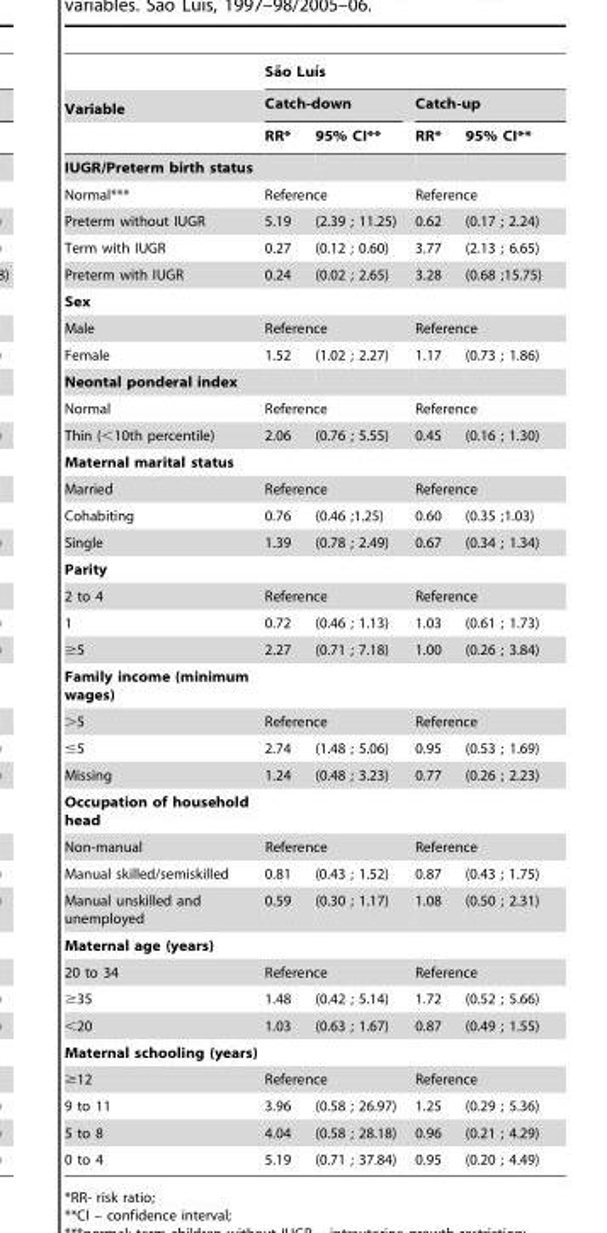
<table><thead><tr><td rowspan="3">Variable</td><td colspan="4">Sa˜o Luı´s</td></tr><tr><td colspan="2">Catch-down</td><td colspan="2">Catch-up</td></tr><tr><td>RR*</td><td>95% CI**</td><td>RR*</td><td>95% CI**</td></tr></thead><tbody><tr><td colspan="5">IUGR/Preterm birth status</td></tr><tr><td>Normal***</td><td colspan="2">Reference</td><td colspan="2">Reference</td></tr><tr><td>Preterm without IUGR</td><td>5.19</td><td>(2.39 ; 11.25)</td><td>0.62</td><td>(0.17 ; 2.24)</td></tr><tr><td>Term with IUGR</td><td>0.27</td><td>(0.12 ; 0.60)</td><td>3.77</td><td>(2.13 ; 6.65)</td></tr><tr><td>Preterm with IUGR</td><td>0.24</td><td>(0.02 ; 2.65)</td><td>3.28</td><td>(0.68 ;15.75)</td></tr><tr><td colspan="5">Sex</td></tr><tr><td>Male</td><td colspan="2">Reference</td><td colspan="2">Reference</td></tr><tr><td>Female</td><td>1.52</td><td>(1.02 ; 2.27)</td><td>1.17</td><td>(0.73 ; 1.86)</td></tr><tr><td colspan="5">Neontal ponderal index</td></tr><tr><td>Normal</td><td colspan="2">Reference</td><td colspan="2">Reference</td></tr><tr><td>Thin (&lt;10th percentile)</td><td>2.06</td><td>(0.76 ; 5.55)</td><td>0.45</td><td>(0.16 ; 1.30)</td></tr><tr><td colspan="5">Maternal marital status</td></tr><tr><td>Married</td><td colspan="2">Reference</td><td colspan="2">Reference</td></tr><tr><td>Cohabiting</td><td>0.76</td><td>(0.46 ;1.25)</td><td>0.60</td><td>(0.35 ;1.03)</td></tr><tr><td>Single</td><td>1.39</td><td>(0.78 ; 2.49)</td><td>0.67</td><td>(0.34 ; 1.34)</td></tr><tr><td colspan="5">Parity</td></tr><tr><td>2 to 4</td><td colspan="2">Reference</td><td colspan="2">Reference</td></tr><tr><td>1</td><td>0.72</td><td>(0.46 ; 1.13)</td><td>1.03</td><td>(0.61 ; 1.73)</td></tr><tr><td>≥5</td><td>2.27</td><td>(0.71 ; 7.18)</td><td>1.00</td><td>(0.26 ; 3.84)</td></tr><tr><td colspan="5">Family income (minimum wages)</td></tr><tr><td>&gt;5</td><td colspan="2">Reference</td><td colspan="2">Reference</td></tr><tr><td>≤5</td><td>2.74</td><td>(1.48 ; 5.06)</td><td>0.95</td><td>(0.53 ; 1.69)</td></tr><tr><td>Missing</td><td>1.24</td><td>(0.48 ; 3.23)</td><td>0.77</td><td>(0.26 ; 2.23)</td></tr><tr><td colspan="5">Occupation of household head</td></tr><tr><td>Non-manual</td><td colspan="2">Reference</td><td colspan="2">Reference</td></tr><tr><td>Manual skilled/semiskilled</td><td>0.81</td><td>(0.43 ; 1.52)</td><td>0.87</td><td>(0.43 ; 1.75)</td></tr><tr><td>Manual unskilled and unemployed</td><td>0.59</td><td>(0.30 ; 1.17)</td><td>1.08</td><td>(0.50 ; 2.31)</td></tr><tr><td colspan="5">Maternal age (years)</td></tr><tr><td>20 to 34</td><td colspan="2">Reference</td><td colspan="2">Reference</td></tr><tr><td>≥35</td><td>1.48</td><td>(0.42 ; 5.14)</td><td>1.72</td><td>(0.52 ; 5.66)</td></tr><tr><td>&lt;20</td><td>1.03</td><td>(0.63 ; 1.67)</td><td>0.87</td><td>(0.49 ; 1.55)</td></tr><tr><td colspan="5">Maternal schooling (years)</td></tr><tr><td>≥12</td><td colspan="2">Reference</td><td colspan="2">Reference</td></tr><tr><td>9 to 11</td><td>3.96</td><td>(0.58 ; 26.97)</td><td>1.25</td><td>(0.29 ; 5.36)</td></tr><tr><td>5 to 8</td><td>4.04</td><td>(0.58 ; 28.18)</td><td>0.96</td><td>(0.21 ; 4.29)</td></tr><tr><td>0 to 4</td><td>5.19</td><td>(0.71 ; 37.84)</td><td>0.95</td><td>(0.20 ; 4.49)</td></tr></tbody></table>